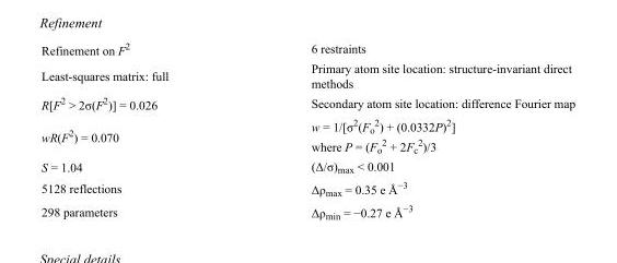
<table><tbody><tr><td>Refinement on F<sup>2</sup></td><td>6 restraints</td></tr><tr><td>Least-squares matrix: full</td><td>Primary atom site location: structure-invariant direct methods</td></tr><tr><td>R[F<sup>2</sup> &gt; 2σ(F<sup>2</sup>)] = 0.026</td><td>Secondary atom site location: difference Fourier map</td></tr><tr><td>wR(F<sup>2</sup>) = 0.070</td><td>w = 1/[σ<sup>2</sup>(F<sub>o</sub> <sup>2</sup>) + (0.0332P)<sup>2</sup>] where P = (F<sub>o</sub> <sup>2</sup> + 2F<sub>c</sub> <sup>2</sup>)/3</td></tr><tr><td>S = 1.04</td><td>(Δ/σ)<sub>max</sub> &lt; 0.001</td></tr><tr><td>5128 reflections</td><td>Δρ<sub>max</sub> = 0.35 e Å<sup>−3</sup></td></tr><tr><td>298 parameters</td><td>Δρ<sub>min</sub> = −0.27 e Å<sup>−3</sup></td></tr></tbody></table>